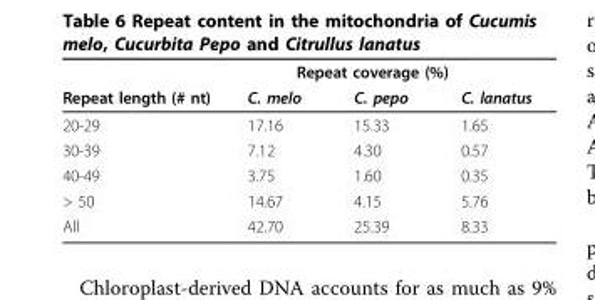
<table><thead><tr><td rowspan="2">Repeat length (# nt)</td><td colspan="2">Repeat coverage (%)</td><td rowspan="2">C. lanatus</td></tr><tr><td>C. melo</td><td>C. pepo</td></tr></thead><tbody><tr><td>20-29</td><td>17.16</td><td>15.33</td><td>1.65</td></tr><tr><td>30-39</td><td>7.12</td><td>4.30</td><td>0.57</td></tr><tr><td>40-49</td><td>3.75</td><td>1.60</td><td>0.35</td></tr><tr><td>&gt; 50</td><td>14.67</td><td>4.15</td><td>5.76</td></tr><tr><td>All</td><td>42.70</td><td>25.39</td><td>8.33</td></tr></tbody></table>